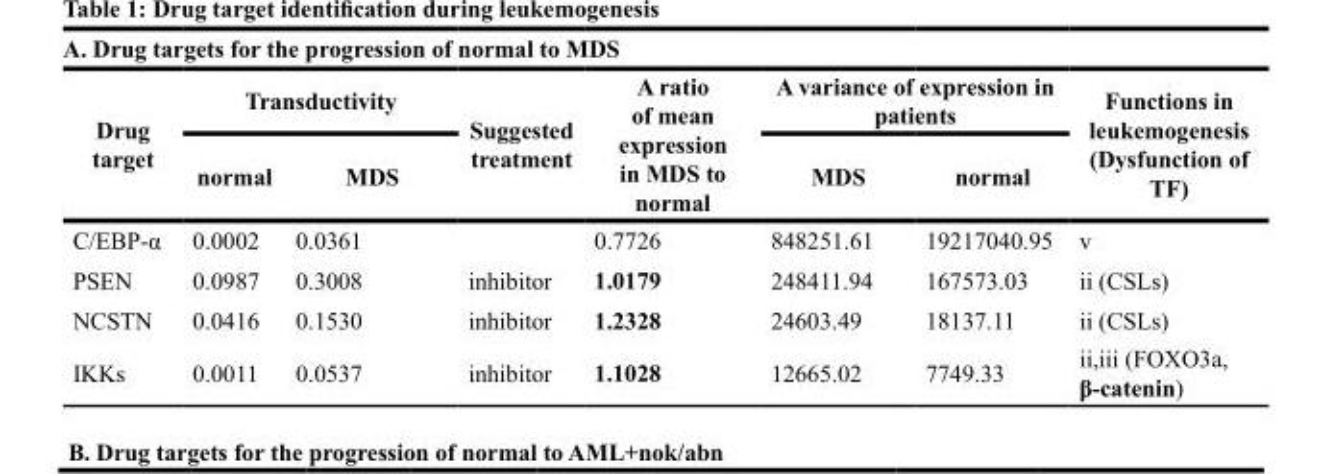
<table><thead><tr><td rowspan="2">Drug target</td><td colspan="2">Transductivity</td><td rowspan="2">Suggested treatment</td><td rowspan="2">A ratio of mean expression in MDS to normal</td><td colspan="2">A variance of expression in patients</td><td rowspan="2">Functions in leukemogenesis (Dysfunction of TF)</td></tr><tr><td>normal</td><td>MDS</td><td>MDS</td><td>normal</td></tr></thead><tbody><tr><td>C/EBP-α</td><td>0.0002</td><td>0.0361</td><td></td><td>0.7726</td><td>848251.61</td><td>19217040.95</td><td>v</td></tr><tr><td>PSEN</td><td>0.0987</td><td>0.3008</td><td>inhibitor</td><td>1.0179</td><td>248411.94</td><td>167573.03</td><td>ii (CSLs)</td></tr><tr><td>NCSTN</td><td>0.0416</td><td>0.1530</td><td>inhibitor</td><td>1.2328</td><td>24603.49</td><td>18137.11</td><td>ii (CSLs)</td></tr><tr><td>IKKs</td><td>0.0011</td><td>0.0537</td><td>inhibitor</td><td>1.1028</td><td>12665.02</td><td>7749.33</td><td>ii,iii (FOXO3a, β-catenin)</td></tr></tbody></table>